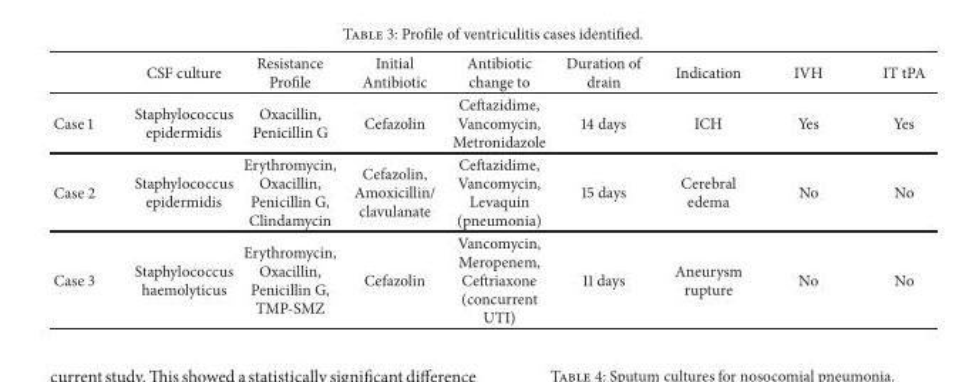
<table><thead><tr><td></td><td>CSF culture</td><td>Resistance Profile</td><td>Initial Antibiotic</td><td>Antibiotic change to</td><td>Duration of drain</td><td>Indication</td><td>IVH</td><td>IT tPA</td></tr></thead><tbody><tr><td>Case 1</td><td>Staphylococcus epidermidis</td><td>Oxacillin, Penicillin G</td><td>Cefazolin</td><td>Ceftazidime, Vancomycin, Metronidazole</td><td>14 days</td><td>ICH</td><td>Yes</td><td>Yes</td></tr><tr><td>Case 2</td><td>Staphylococcus epidermidis</td><td>Erythromycin, Oxacillin, Penicillin G, Clindamycin</td><td>Cefazolin, Amoxicillin/ clavulanate</td><td>Ceftazidime, Vancomycin, Levaquin (pneumonia)</td><td>15 days</td><td>Cerebral edema</td><td>No</td><td>No</td></tr><tr><td>Case 3</td><td>Staphylococcus haemolyticus</td><td>Erythromycin, Oxacillin, Penicillin G, TMP-SMZ</td><td>Cefazolin</td><td>Vancomycin, Meropenem, Ceftriaxone (concurrent UTI)</td><td>11 days</td><td>Aneurysm rupture</td><td>No</td><td>No</td></tr></tbody></table>